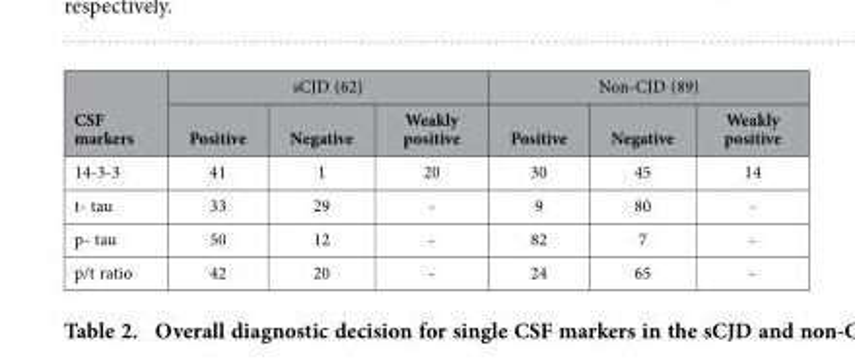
<table><thead><tr><td rowspan="2">CSF markers</td><td colspan="3">sCJD (62)</td><td colspan="3">Non-CJD (89)</td></tr><tr><td>Positive</td><td>Negative</td><td>Weakly positive</td><td>Positive</td><td>Negative</td><td>Weakly positive</td></tr></thead><tbody><tr><td>14-3-3</td><td>41</td><td>1</td><td>20</td><td>30</td><td>45</td><td>14</td></tr><tr><td>t- tau</td><td>33</td><td>29</td><td>-</td><td>9</td><td>80</td><td>-</td></tr><tr><td>p- tau</td><td>50</td><td>12</td><td>-</td><td>82</td><td>7</td><td>-</td></tr><tr><td>p/t ratio</td><td>42</td><td>20</td><td>-</td><td>24</td><td>65</td><td>-</td></tr></tbody></table>